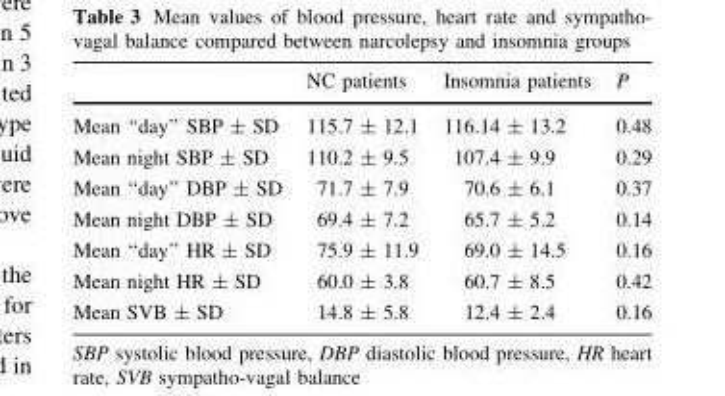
<table><thead><tr><td></td><td>NC patients</td><td>Insomnia patients</td><td>P</td></tr></thead><tbody><tr><td>Mean ‘‘day’’ SBP ± SD</td><td>115.7 ± 12.1</td><td>116.14 ± 13.2</td><td>0.48</td></tr><tr><td>Mean night SBP ± SD</td><td>110.2 ± 9.5</td><td>107.4 ± 9.9</td><td>0.29</td></tr><tr><td>Mean ‘‘day’’ DBP ± SD</td><td>71.7 ± 7.9</td><td>70.6 ± 6.1</td><td>0.37</td></tr><tr><td>Mean night DBP ± SD</td><td>69.4 ± 7.2</td><td>65.7 ± 5.2</td><td>0.14</td></tr><tr><td>Mean ‘‘day’’ HR ± SD</td><td>75.9 ± 11.9</td><td>69.0 ± 14.5</td><td>0.16</td></tr><tr><td>Mean night HR ± SD</td><td>60.0 ± 3.8</td><td>60.7 ± 8.5</td><td>0.42</td></tr><tr><td>Mean SVB ± SD</td><td>14.8 ± 5.8</td><td>12.4 ± 2.4</td><td>0.16</td></tr></tbody></table>